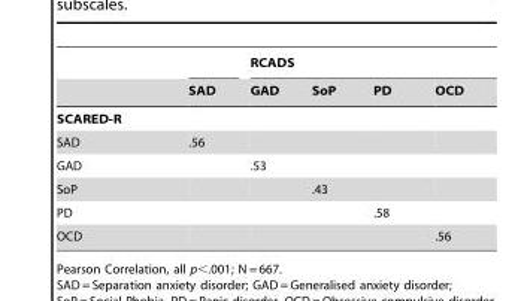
<table><thead><tr><td rowspan="2"></td><td rowspan="2">SAD</td><td colspan="4">RCADS</td></tr><tr><td>GAD</td><td>SoP</td><td>PD</td><td>OCD</td></tr></thead><tbody><tr><td colspan="6">SCARED-R</td></tr><tr><td>SAD</td><td>.56</td><td></td><td></td><td></td><td></td></tr><tr><td>GAD</td><td></td><td>.53</td><td></td><td></td><td></td></tr><tr><td>SoP</td><td></td><td></td><td>.43</td><td></td><td></td></tr><tr><td>PD</td><td></td><td></td><td></td><td>.58</td><td></td></tr><tr><td>OCD</td><td></td><td></td><td></td><td></td><td>.56</td></tr></tbody></table>